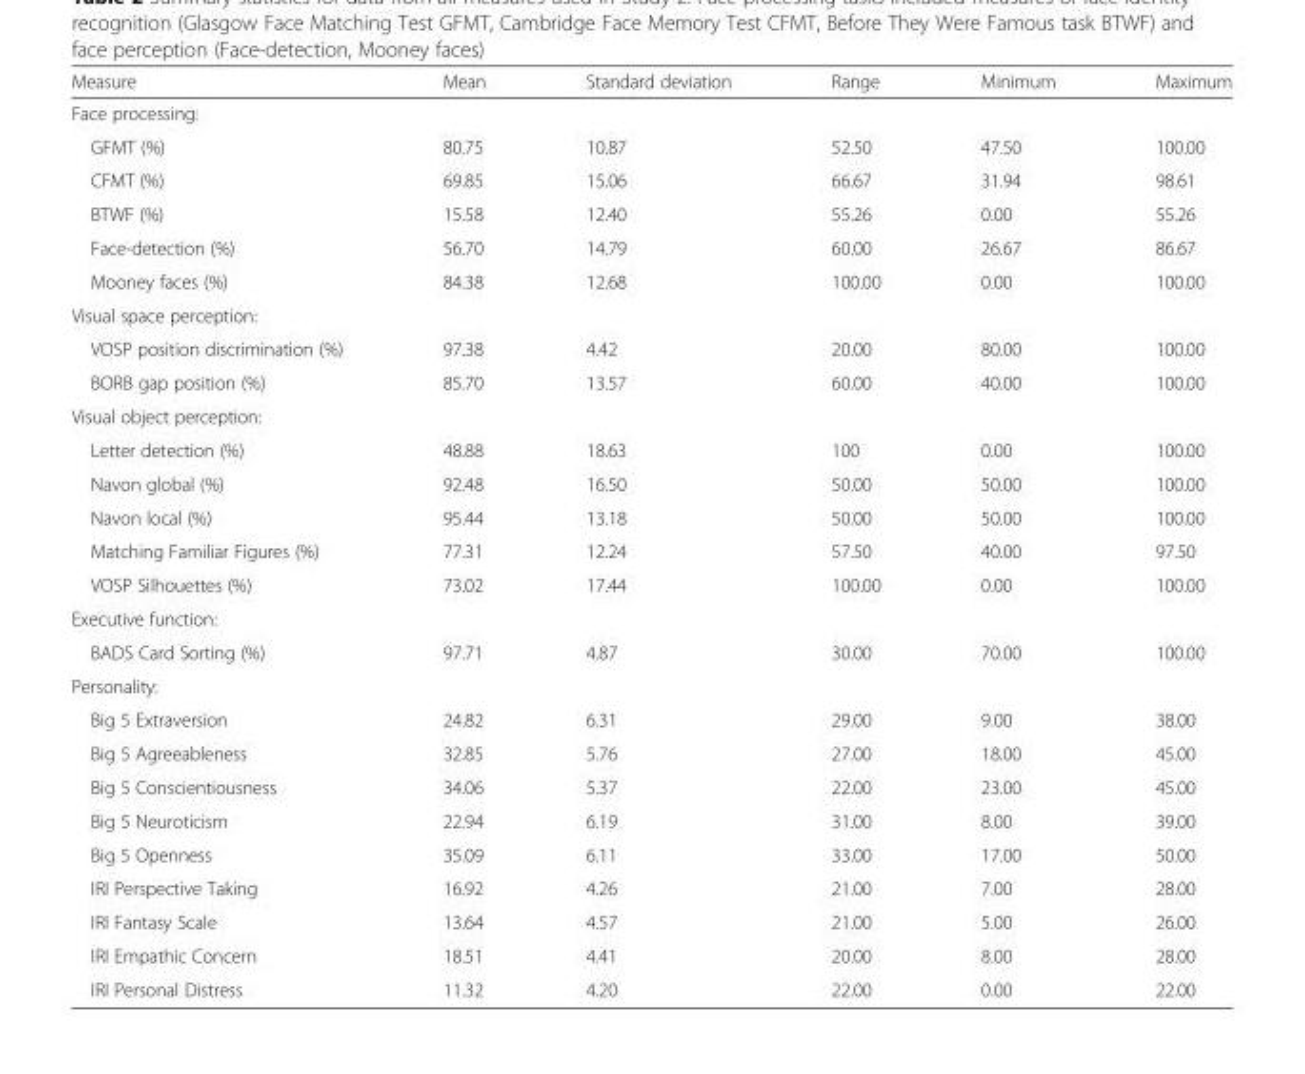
<table><thead><tr><td>Measure</td><td>Mean</td><td>Standard deviation</td><td>Range</td><td>Minimum</td><td>Maximum</td></tr></thead><tbody><tr><td colspan="6">Face processing:</td></tr><tr><td>GFMT (%)</td><td>80.75</td><td>10.87</td><td>52.50</td><td>47.50</td><td>100.00</td></tr><tr><td>CFMT (%)</td><td>69.85</td><td>15.06</td><td>66.67</td><td>31.94</td><td>98.61</td></tr><tr><td>BTWF (%)</td><td>15.58</td><td>12.40</td><td>55.26</td><td>0.00</td><td>55.26</td></tr><tr><td>Face-detection (%)</td><td>56.70</td><td>14.79</td><td>60.00</td><td>26.67</td><td>86.67</td></tr><tr><td>Mooney faces (%)</td><td>84.38</td><td>12.68</td><td>100.00</td><td>0.00</td><td>100.00</td></tr><tr><td colspan="6">Visual space perception:</td></tr><tr><td>VOSP position discrimination (%)</td><td>97.38</td><td>4.42</td><td>20.00</td><td>80.00</td><td>100.00</td></tr><tr><td>BORB gap position (%)</td><td>85.70</td><td>13.57</td><td>60.00</td><td>40.00</td><td>100.00</td></tr><tr><td colspan="6">Visual object perception:</td></tr><tr><td>Letter detection (%)</td><td>48.88</td><td>18.63</td><td>100</td><td>0.00</td><td>100.00</td></tr><tr><td>Navon global (%)</td><td>92.48</td><td>16.50</td><td>50.00</td><td>50.00</td><td>100.00</td></tr><tr><td>Navon local (%)</td><td>95.44</td><td>13.18</td><td>50.00</td><td>50.00</td><td>100.00</td></tr><tr><td>Matching Familiar Figures (%)</td><td>77.31</td><td>12.24</td><td>57.50</td><td>40.00</td><td>97.50</td></tr><tr><td>VOSP Silhouettes (%)</td><td>73.02</td><td>17.44</td><td>100.00</td><td>0.00</td><td>100.00</td></tr><tr><td colspan="6">Executive function:</td></tr><tr><td>BADS Card Sorting (%)</td><td>97.71</td><td>4.87</td><td>30.00</td><td>70.00</td><td>100.00</td></tr><tr><td colspan="6">Personality:</td></tr><tr><td>Big 5 Extraversion</td><td>24.82</td><td>6.31</td><td>29.00</td><td>9.00</td><td>38.00</td></tr><tr><td>Big 5 Agreeableness</td><td>32.85</td><td>5.76</td><td>27.00</td><td>18.00</td><td>45.00</td></tr><tr><td>Big 5 Conscientiousness</td><td>34.06</td><td>5.37</td><td>22.00</td><td>23.00</td><td>45.00</td></tr><tr><td>Big 5 Neuroticism</td><td>22.94</td><td>6.19</td><td>31.00</td><td>8.00</td><td>39.00</td></tr><tr><td>Big 5 Openness</td><td>35.09</td><td>6.11</td><td>33.00</td><td>17.00</td><td>50.00</td></tr><tr><td>IRI Perspective Taking</td><td>16.92</td><td>4.26</td><td>21.00</td><td>7.00</td><td>28.00</td></tr><tr><td>IRI Fantasy Scale</td><td>13.64</td><td>4.57</td><td>21.00</td><td>5.00</td><td>26.00</td></tr><tr><td>IRI Empathic Concern</td><td>18.51</td><td>4.41</td><td>20.00</td><td>8.00</td><td>28.00</td></tr><tr><td>IRI Personal Distress</td><td>11.32</td><td>4.20</td><td>22.00</td><td>0.00</td><td>22.00</td></tr></tbody></table>